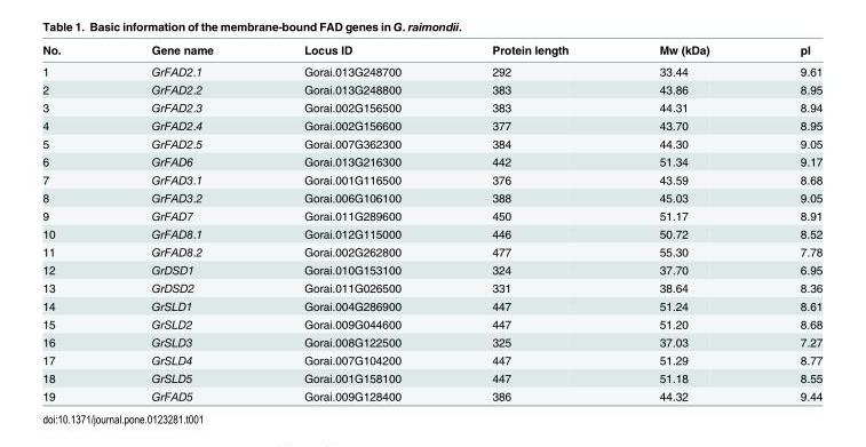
<table><thead><tr><td>No.</td><td>Gene name</td><td>Locus ID</td><td>Protein length</td><td>Mw (kDa)</td><td>pI</td></tr></thead><tbody><tr><td>1</td><td>GrFAD2.1</td><td>Gorai.013G248700</td><td>292</td><td>33.44</td><td>9.61</td></tr><tr><td>2</td><td>GrFAD2.2</td><td>Gorai.013G248800</td><td>383</td><td>43.86</td><td>8.95</td></tr><tr><td>3</td><td>GrFAD2.3</td><td>Gorai.002G156500</td><td>383</td><td>44.31</td><td>8.94</td></tr><tr><td>4</td><td>GrFAD2.4</td><td>Gorai.002G156600</td><td>377</td><td>43.70</td><td>8.95</td></tr><tr><td>5</td><td>GrFAD2.5</td><td>Gorai.007G362300</td><td>384</td><td>44.30</td><td>9.05</td></tr><tr><td>6</td><td>GrFAD6</td><td>Gorai.013G216300</td><td>442</td><td>51.34</td><td>9.17</td></tr><tr><td>7</td><td>GrFAD3.1</td><td>Gorai.001G116500</td><td>376</td><td>43.59</td><td>8.68</td></tr><tr><td>8</td><td>GrFAD3.2</td><td>Gorai.006G106100</td><td>388</td><td>45.03</td><td>9.05</td></tr><tr><td>9</td><td>GrFAD7</td><td>Gorai.011G289600</td><td>450</td><td>51.17</td><td>8.91</td></tr><tr><td>10</td><td>GrFAD8.1</td><td>Gorai.012G115000</td><td>446</td><td>50.72</td><td>8.52</td></tr><tr><td>11</td><td>GrFAD8.2</td><td>Gorai.002G262800</td><td>477</td><td>55.30</td><td>7.78</td></tr><tr><td>12</td><td>GrDSD1</td><td>Gorai.010G153100</td><td>324</td><td>37.70</td><td>6.95</td></tr><tr><td>13</td><td>GrDSD2</td><td>Gorai.011G026500</td><td>331</td><td>38.64</td><td>8.36</td></tr><tr><td>14</td><td>GrSLD1</td><td>Gorai.004G286900</td><td>447</td><td>51.24</td><td>8.61</td></tr><tr><td>15</td><td>GrSLD2</td><td>Gorai.009G044600</td><td>447</td><td>51.20</td><td>8.68</td></tr><tr><td>16</td><td>GrSLD3</td><td>Gorai.008G122500</td><td>325</td><td>37.03</td><td>7.27</td></tr><tr><td>17</td><td>GrSLD4</td><td>Gorai.007G104200</td><td>447</td><td>51.29</td><td>8.77</td></tr><tr><td>18</td><td>GrSLD5</td><td>Gorai.001G158100</td><td>447</td><td>51.18</td><td>8.55</td></tr><tr><td>19</td><td>GrFAD5</td><td>Gorai.009G128400</td><td>386</td><td>44.32</td><td>9.44</td></tr></tbody></table>